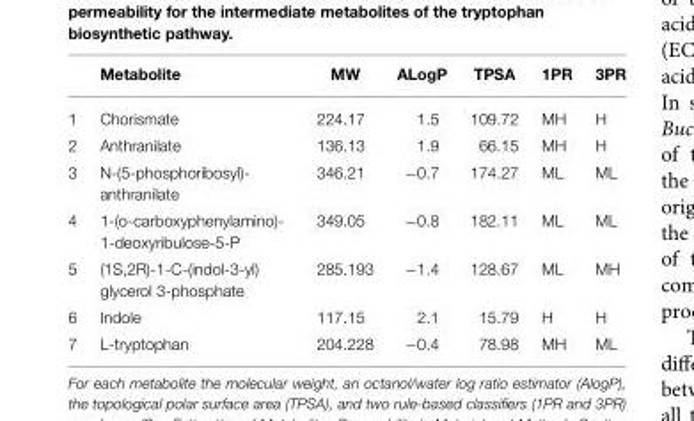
<table><thead><tr><td></td><td>Metabolite</td><td>MW</td><td>ALogP</td><td>TPSA</td><td>1PR</td><td>3PR</td></tr></thead><tbody><tr><td>1</td><td>Chorismate</td><td>224.17</td><td>1.5</td><td>109.72</td><td>MH</td><td>H</td></tr><tr><td>2</td><td>Anthranilate</td><td>136.13</td><td>1.9</td><td>66.15</td><td>MH</td><td>H</td></tr><tr><td>3</td><td>N-(5-phosphoribosyl)- anthranilate</td><td>346.21</td><td>−0.7</td><td>174.27</td><td>ML</td><td>ML</td></tr><tr><td>4</td><td>1-(o-carboxyphenylamino)- 1-deoxyribulose-5-P</td><td>349.05</td><td>−0.8</td><td>182.11</td><td>ML</td><td>ML</td></tr><tr><td>5</td><td>(1S,2R)-1-C-(indol-3-yl) glycerol 3-phosphate</td><td>285.193</td><td>−1.4</td><td>128.67</td><td>ML</td><td>MH</td></tr><tr><td>6</td><td>Indole</td><td>117.15</td><td>2.1</td><td>15.79</td><td>H</td><td>H</td></tr><tr><td>7</td><td>L-tryptophan</td><td>204.228</td><td>−0.4</td><td>78.98</td><td>MH</td><td>ML</td></tr></tbody></table>